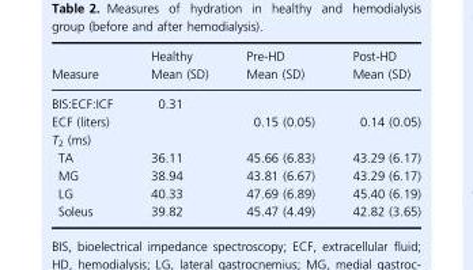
<table><thead><tr><td>Measure</td><td>Healthy Mean (SD)</td><td>Pre-HD Mean (SD)</td><td>Post-HD Mean (SD)</td></tr></thead><tbody><tr><td>BIS:ECF:ICF</td><td>0.31</td><td></td><td></td></tr><tr><td>ECF (liters)</td><td></td><td>0.15 (0.05)</td><td>0.14 (0.05)</td></tr><tr><td colspan="4">T<sub>2</sub> (ms)</td></tr><tr><td>TA</td><td>36.11</td><td>45.66 (6.83)</td><td>43.29 (6.17)</td></tr><tr><td>MG</td><td>38.94</td><td>43.81 (6.67)</td><td>43.29 (6.17)</td></tr><tr><td>LG</td><td>40.33</td><td>47.69 (6.89)</td><td>45.40 (6.19)</td></tr><tr><td>Soleus</td><td>39.82</td><td>45.47 (4.49)</td><td>42.82 (3.65)</td></tr></tbody></table>